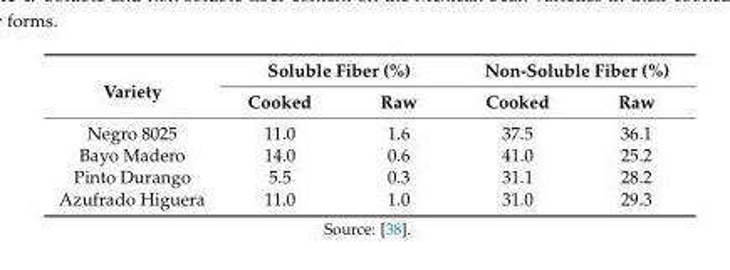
<table><thead><tr><td rowspan="2">Variety</td><td colspan="2">Soluble Fiber (%)</td><td colspan="2">Non-Soluble Fiber (%)</td></tr><tr><td>Cooked</td><td>Raw</td><td>Cooked</td><td>Raw</td></tr></thead><tbody><tr><td>Negro 8025</td><td>11.0</td><td>1.6</td><td>37.5</td><td>36.1</td></tr><tr><td>Bayo Madero</td><td>14.0</td><td>0.6</td><td>41.0</td><td>25.2</td></tr><tr><td>Pinto Durango</td><td>5.5</td><td>0.3</td><td>31.1</td><td>28.2</td></tr><tr><td>Azufrado Higuera</td><td>11.0</td><td>1.0</td><td>31.0</td><td>29.3</td></tr></tbody></table>